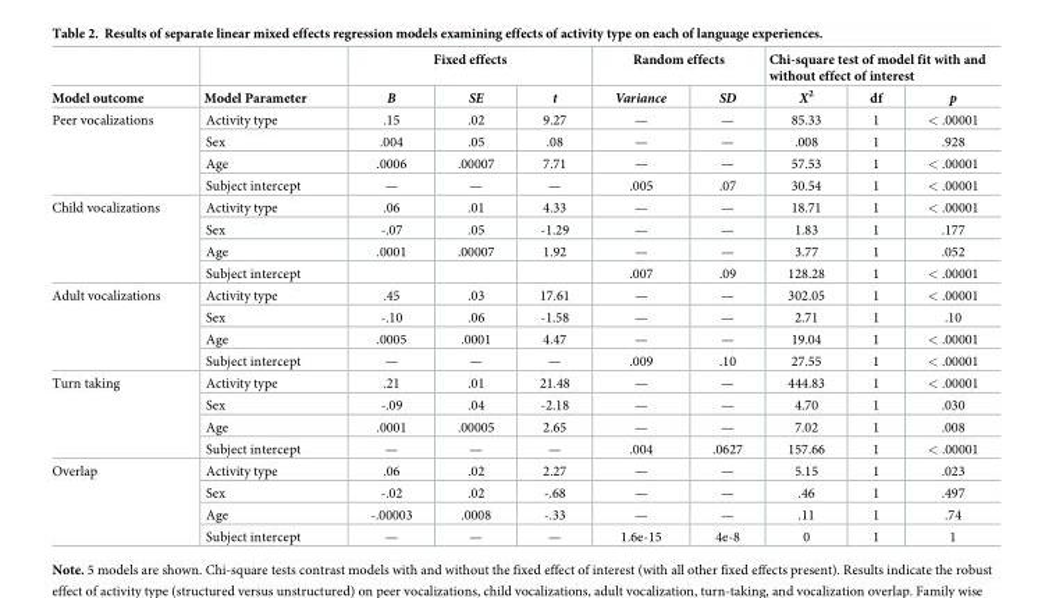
<table><thead><tr><td rowspan="2">Model outcome</td><td rowspan="2">Model Parameter</td><td colspan="3">Fixed effects</td><td colspan="2">Random effects</td><td colspan="3">Chi-square test of model fit with and without effect of interest</td></tr><tr><td>B</td><td>SE</td><td>t</td><td>Variance</td><td>SD</td><td>X<sup>2</sup></td><td>df</td><td>p</td></tr></thead><tbody><tr><td rowspan="4">Peer vocalizations</td><td>Activity type</td><td>.15</td><td>.02</td><td>9.27</td><td>—</td><td>—</td><td>85.33</td><td>1</td><td>&lt; .00001</td></tr><tr><td>Sex</td><td>.004</td><td>.05</td><td>.08</td><td>—</td><td>—</td><td>.008</td><td>1</td><td>.928</td></tr><tr><td>Age</td><td>.0006</td><td>.00007</td><td>7.71</td><td>—</td><td>—</td><td>57.53</td><td>1</td><td>&lt; .00001</td></tr><tr><td>Subject intercept</td><td>—</td><td>—</td><td>—</td><td>.005</td><td>.07</td><td>30.54</td><td>1</td><td>&lt; .00001</td></tr><tr><td rowspan="4">Child vocalizations</td><td>Activity type</td><td>.06</td><td>.01</td><td>4.33</td><td>—</td><td>—</td><td>18.71</td><td>1</td><td>&lt; .00001</td></tr><tr><td>Sex</td><td>-.07</td><td>.05</td><td>-1.29</td><td>—</td><td>—</td><td>1.83</td><td>1</td><td>.177</td></tr><tr><td>Age</td><td>.0001</td><td>.00007</td><td>1.92</td><td>—</td><td>—</td><td>3.77</td><td>1</td><td>.052</td></tr><tr><td>Subject intercept</td><td></td><td></td><td></td><td>.007</td><td>.09</td><td>128.28</td><td>1</td><td>&lt; .00001</td></tr><tr><td rowspan="4">Adult vocalizations</td><td>Activity type</td><td>.45</td><td>.03</td><td>17.61</td><td>—</td><td>—</td><td>302.05</td><td>1</td><td>&lt; .00001</td></tr><tr><td>Sex</td><td>-.10</td><td>.06</td><td>-1.58</td><td>—</td><td>—</td><td>2.71</td><td>1</td><td>.10</td></tr><tr><td>Age</td><td>.0005</td><td>.0001</td><td>4.47</td><td>—</td><td>—</td><td>19.04</td><td>1</td><td>&lt; .00001</td></tr><tr><td>Subject intercept</td><td>—</td><td>—</td><td>—</td><td>.009</td><td>.10</td><td>27.55</td><td>1</td><td>&lt; .00001</td></tr><tr><td rowspan="4">Turn taking</td><td>Activity type</td><td>.21</td><td>.01</td><td>21.48</td><td>—</td><td>—</td><td>444.83</td><td>1</td><td>&lt; .00001</td></tr><tr><td>Sex</td><td>-.09</td><td>.04</td><td>-2.18</td><td>—</td><td>—</td><td>4.70</td><td>1</td><td>.030</td></tr><tr><td>Age</td><td>.0001</td><td>.00005</td><td>2.65</td><td>—</td><td>—</td><td>7.02</td><td>1</td><td>.008</td></tr><tr><td>Subject intercept</td><td>—</td><td>—</td><td>—</td><td>.004</td><td>.0627</td><td>157.66</td><td>1</td><td>&lt; .00001</td></tr><tr><td rowspan="4">Overlap</td><td>Activity type</td><td>.06</td><td>.02</td><td>2.27</td><td>—</td><td>—</td><td>5.15</td><td>1</td><td>.023</td></tr><tr><td>Sex</td><td>-.02</td><td>.02</td><td>-.68</td><td>—</td><td>—</td><td>.46</td><td>1</td><td>.497</td></tr><tr><td>Age</td><td>-.00003</td><td>.0008</td><td>-.33</td><td>—</td><td>—</td><td>.11</td><td>1</td><td>.74</td></tr><tr><td>Subject intercept</td><td>—</td><td>—</td><td>—</td><td>1.6e-15</td><td>4e-8</td><td>0</td><td>1</td><td>1</td></tr></tbody></table>